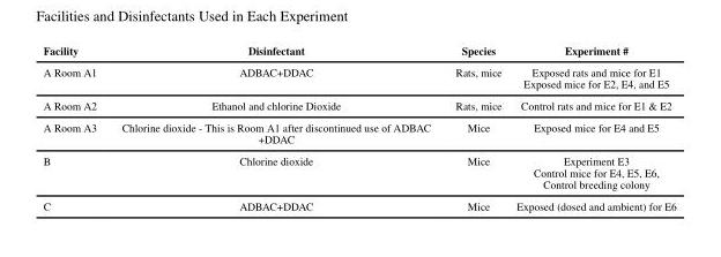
<table><thead><tr><td>Facility</td><td>Disinfectant</td><td>Species</td><td>Experiment #</td></tr></thead><tbody><tr><td>A Room A1</td><td>ADBAC+DDAC</td><td>Rats, mice</td><td>Exposed rats and mice for E1 Exposed mice for E2, E4, and E5</td></tr><tr><td>A Room A2</td><td>Ethanol and chlorine Dioxide</td><td>Rats, mice</td><td>Control rats and mice for E1 &amp; E2</td></tr><tr><td>A Room A3</td><td>Chlorine dioxide - This is Room A1 after discontinued use of ADBAC +DDAC</td><td>Mice</td><td>Exposed mice for E4 and E5</td></tr><tr><td>B</td><td>Chlorine dioxide</td><td>Mice</td><td>Experiment E3 Control mice for E4, E5, E6, Control breeding colony</td></tr><tr><td>C</td><td>ADBAC+DDAC</td><td>Mice</td><td>Exposed (dosed and ambient) for E6</td></tr></tbody></table>